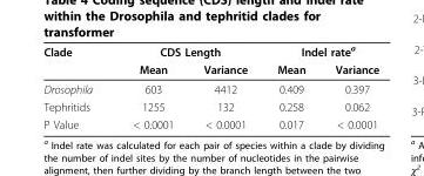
<table><thead><tr><td rowspan="2">Clade</td><td colspan="2">CDS Length</td><td colspan="2">Indel rate<sup>a</sup></td></tr><tr><td>Mean</td><td>Variance</td><td>Mean</td><td>Variance</td></tr></thead><tbody><tr><td>Drosophila</td><td>603</td><td>4412</td><td>0.409</td><td>0.397</td></tr><tr><td>Tephritids</td><td>1255</td><td>132</td><td>0.258</td><td>0.062</td></tr><tr><td>P Value</td><td>&lt; 0.0001</td><td>&lt; 0.0001</td><td>0.017</td><td>&lt; 0.0001</td></tr></tbody></table>